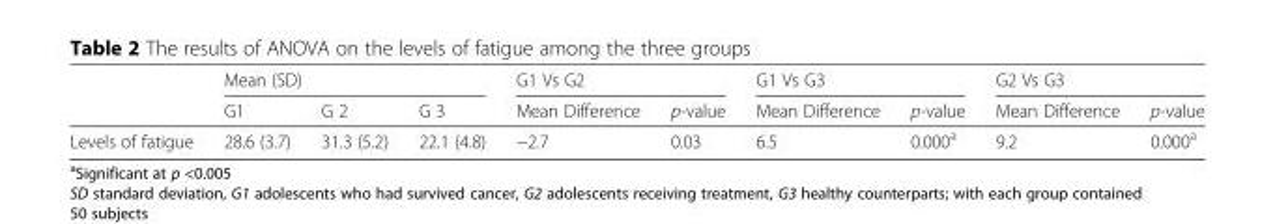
<table><thead><tr><td rowspan="2"></td><td colspan="3">Mean (SD)</td><td colspan="2">G1 Vs G2</td><td colspan="2">G1 Vs G3</td><td colspan="2">G2 Vs G3</td></tr><tr><td>G1</td><td>G 2</td><td>G 3</td><td>Mean Difference</td><td>p-value</td><td>Mean Difference</td><td>p-value</td><td>Mean Difference</td><td>p-value</td></tr></thead><tbody><tr><td>Levels of fatigue</td><td>28.6 (3.7)</td><td>31.3 (5.2)</td><td>22.1 (4.8)</td><td>−2.7</td><td>0.03</td><td>6.5</td><td>0.000<sup>a</sup></td><td>9.2</td><td>0.000<sup>a</sup></td></tr></tbody></table>